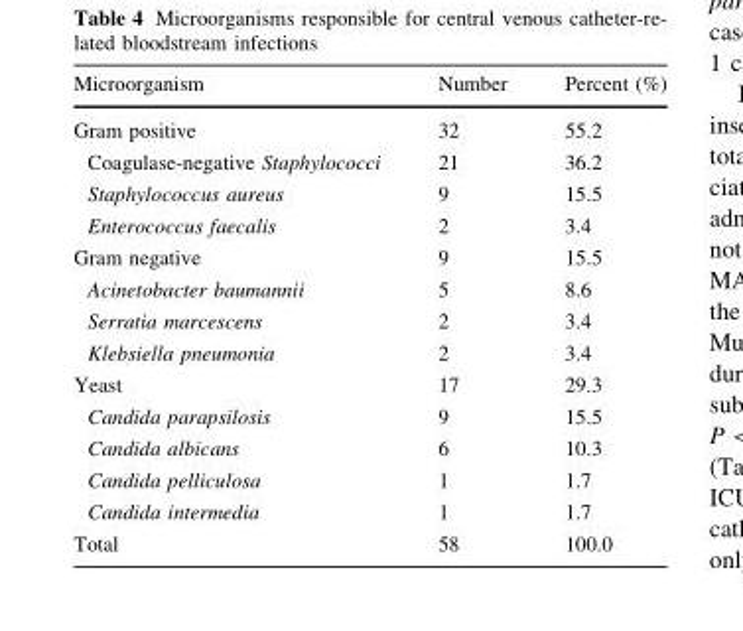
<table><thead><tr><td>Microorganism</td><td>Number</td><td>Percent (%)</td></tr></thead><tbody><tr><td>Gram positive</td><td>32</td><td>55.2</td></tr><tr><td>Coagulase-negative Staphylococci</td><td>21</td><td>36.2</td></tr><tr><td>Staphylococcus aureus</td><td>9</td><td>15.5</td></tr><tr><td>Enterococcus faecalis</td><td>2</td><td>3.4</td></tr><tr><td>Gram negative</td><td>9</td><td>15.5</td></tr><tr><td>Acinetobacter baumannii</td><td>5</td><td>8.6</td></tr><tr><td>Serratia marcescens</td><td>2</td><td>3.4</td></tr><tr><td>Klebsiella pneumonia</td><td>2</td><td>3.4</td></tr><tr><td>Yeast</td><td>17</td><td>29.3</td></tr><tr><td>Candida parapsilosis</td><td>9</td><td>15.5</td></tr><tr><td>Candida albicans</td><td>6</td><td>10.3</td></tr><tr><td>Candida pelliculosa</td><td>1</td><td>1.7</td></tr><tr><td>Candida intermedia</td><td>1</td><td>1.7</td></tr><tr><td>Total</td><td>58</td><td>100.0</td></tr></tbody></table>